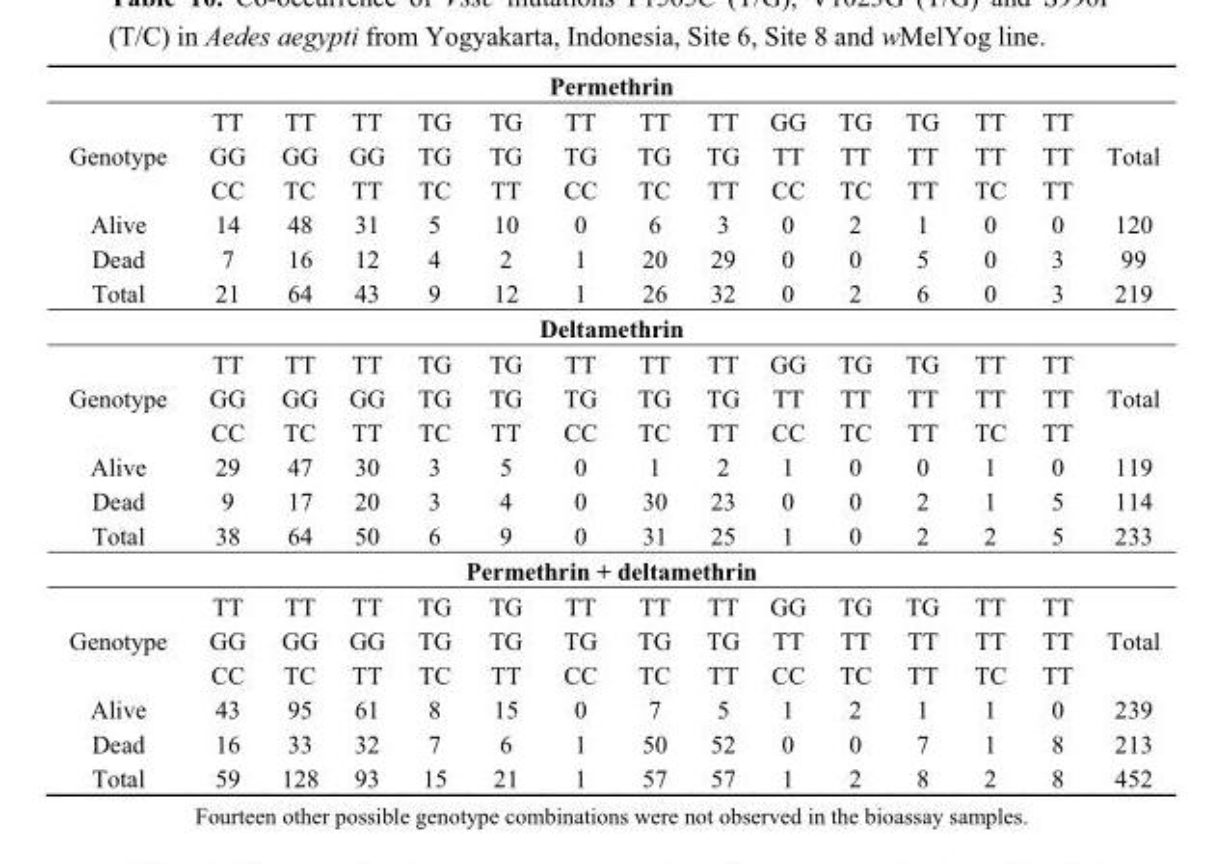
<table><tbody><tr><td colspan="15">Permethrin</td></tr><tr><td rowspan="3">Genotype</td><td>TT</td><td>TT</td><td>TT</td><td>TG</td><td>TG</td><td>TT</td><td>TT</td><td>TT</td><td>GG</td><td>TG</td><td>TG</td><td>TT</td><td>TT</td><td rowspan="3">Total</td></tr><tr><td>GG</td><td>GG</td><td>GG</td><td>TG</td><td>TG</td><td>TG</td><td>TG</td><td>TG</td><td>TT</td><td>TT</td><td>TT</td><td>TT</td><td>TT</td></tr><tr><td>CC</td><td>TC</td><td>TT</td><td>TC</td><td>TT</td><td>CC</td><td>TC</td><td>TT</td><td>CC</td><td>TC</td><td>TT</td><td>TC</td><td>TT</td></tr><tr><td>Alive</td><td>14</td><td>48</td><td>31</td><td>5</td><td>10</td><td>0</td><td>6</td><td>3</td><td>0</td><td>2</td><td>1</td><td>0</td><td>0</td><td>120</td></tr><tr><td>Dead</td><td>7</td><td>16</td><td>12</td><td>4</td><td>2</td><td>1</td><td>20</td><td>29</td><td>0</td><td>0</td><td>5</td><td>0</td><td>3</td><td>99</td></tr><tr><td>Total</td><td>21</td><td>64</td><td>43</td><td>9</td><td>12</td><td>1</td><td>26</td><td>32</td><td>0</td><td>2</td><td>6</td><td>0</td><td>3</td><td>219</td></tr><tr><td colspan="15">Deltamethrin</td></tr><tr><td rowspan="3">Genotype</td><td>TT</td><td>TT</td><td>TT</td><td>TG</td><td>TG</td><td>TT</td><td>TT</td><td>TT</td><td>GG</td><td>TG</td><td>TG</td><td>TT</td><td>TT</td><td rowspan="3">Total</td></tr><tr><td>GG</td><td>GG</td><td>GG</td><td>TG</td><td>TG</td><td>TG</td><td>TG</td><td>TG</td><td>TT</td><td>TT</td><td>TT</td><td>TT</td><td>TT</td></tr><tr><td>CC</td><td>TC</td><td>TT</td><td>TC</td><td>TT</td><td>CC</td><td>TC</td><td>TT</td><td>CC</td><td>TC</td><td>TT</td><td>TC</td><td>TT</td></tr><tr><td>Alive</td><td>29</td><td>47</td><td>30</td><td>3</td><td>5</td><td>0</td><td>1</td><td>2</td><td>1</td><td>0</td><td>0</td><td>1</td><td>0</td><td>119</td></tr><tr><td>Dead</td><td>9</td><td>17</td><td>20</td><td>3</td><td>4</td><td>0</td><td>30</td><td>23</td><td>0</td><td>0</td><td>2</td><td>1</td><td>5</td><td>114</td></tr><tr><td>Total</td><td>38</td><td>64</td><td>50</td><td>6</td><td>9</td><td>0</td><td>31</td><td>25</td><td>1</td><td>0</td><td>2</td><td>2</td><td>5</td><td>233</td></tr><tr><td colspan="15">Permethrin + deltamethrin</td></tr><tr><td rowspan="3">Genotype</td><td>TT</td><td>TT</td><td>TT</td><td>TG</td><td>TG</td><td>TT</td><td>TT</td><td>TT</td><td>GG</td><td>TG</td><td>TG</td><td>TT</td><td>TT</td><td rowspan="3">Total</td></tr><tr><td>GG</td><td>GG</td><td>GG</td><td>TG</td><td>TG</td><td>TG</td><td>TG</td><td>TG</td><td>TT</td><td>TT</td><td>TT</td><td>TT</td><td>TT</td></tr><tr><td>CC</td><td>TC</td><td>TT</td><td>TC</td><td>TT</td><td>CC</td><td>TC</td><td>TT</td><td>CC</td><td>TC</td><td>TT</td><td>TC</td><td>TT</td></tr><tr><td>Alive</td><td>43</td><td>95</td><td>61</td><td>8</td><td>15</td><td>0</td><td>7</td><td>5</td><td>1</td><td>2</td><td>1</td><td>1</td><td>0</td><td>239</td></tr><tr><td>Dead</td><td>16</td><td>33</td><td>32</td><td>7</td><td>6</td><td>1</td><td>50</td><td>52</td><td>0</td><td>0</td><td>7</td><td>1</td><td>8</td><td>213</td></tr><tr><td>Total</td><td>59</td><td>128</td><td>93</td><td>15</td><td>21</td><td>1</td><td>57</td><td>57</td><td>1</td><td>2</td><td>8</td><td>2</td><td>8</td><td>452</td></tr></tbody></table>